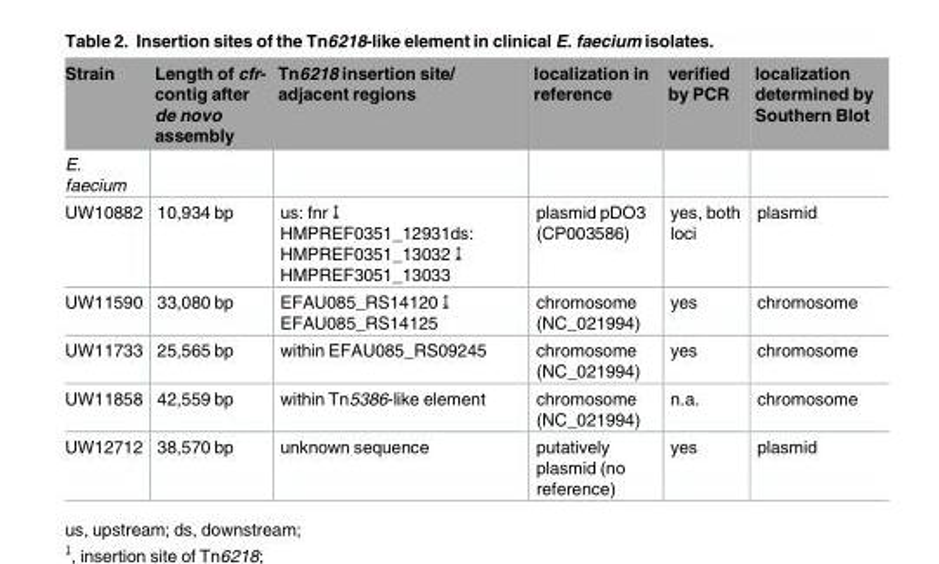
<table><thead><tr><td>Strain</td><td>Length of cfr- contig after de novo assembly</td><td>Tn6218 insertion site/ adjacent regions</td><td>localization in reference</td><td>verified by PCR</td><td>localization determined by Southern Blot</td></tr></thead><tbody><tr><td colspan="6">E. faecium</td></tr><tr><td>UW10882</td><td>10,934 bp</td><td>us: fnr ↨ HMPREF0351_12931ds: HMPREF0351_13032 ↨ HMPREF3051_13033</td><td>plasmid pDO3 (CP003586)</td><td>yes, both loci</td><td>plasmid</td></tr><tr><td>UW11590</td><td>33,080 bp</td><td>EFAU085_RS14120 ↨ EFAU085_RS14125</td><td>chromosome (NC_021994)</td><td>yes</td><td>chromosome</td></tr><tr><td>UW11733</td><td>25,565 bp</td><td>within EFAU085_RS09245</td><td>chromosome (NC_021994)</td><td>yes</td><td>chromosome</td></tr><tr><td>UW11858</td><td>42,559 bp</td><td>within Tn5386-like element</td><td>chromosome (NC_021994)</td><td>n.a.</td><td>chromosome</td></tr><tr><td>UW12712</td><td>38,570 bp</td><td>unknown sequence</td><td>putatively plasmid (no reference)</td><td>yes</td><td>plasmid</td></tr></tbody></table>